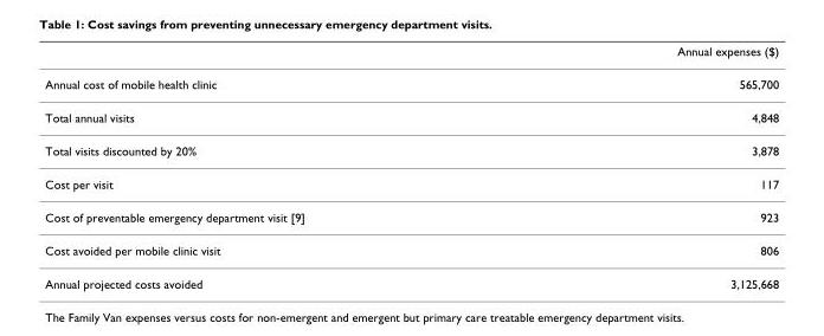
<table><thead><tr><td></td><td>Annual expenses ($)</td></tr></thead><tbody><tr><td>Annual cost of mobile health clinic</td><td>565,700</td></tr><tr><td>Total annual visits</td><td>4,848</td></tr><tr><td>Total visits discounted by 20%</td><td>3,878</td></tr><tr><td>Cost per visit</td><td>117</td></tr><tr><td>Cost of preventable emergency department visit [9]</td><td>923</td></tr><tr><td>Cost avoided per mobile clinic visit</td><td>806</td></tr><tr><td>Annual projected costs avoided</td><td>3,125,668</td></tr></tbody></table>